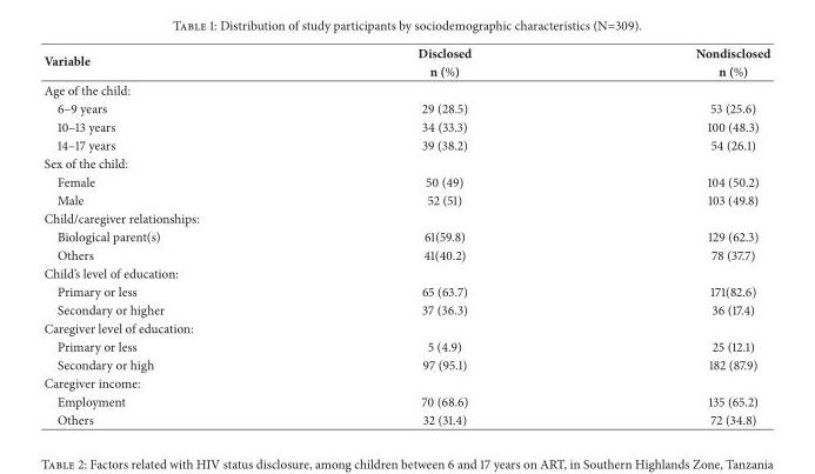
<table><thead><tr><td rowspan="2">Variable</td><td rowspan="2">Disclosed n (%)</td><td rowspan="2">Nondisclosed n (%)</td></tr><tr></tr></thead><tbody><tr><td colspan="3">Age of the child:</td></tr><tr><td>6–9 years</td><td>29 (28.5)</td><td>53 (25.6)</td></tr><tr><td>10–13 years</td><td>34 (33.3)</td><td>100 (48.3)</td></tr><tr><td>14–17 years</td><td>39 (38.2)</td><td>54 (26.1)</td></tr><tr><td colspan="3">Sex of the child:</td></tr><tr><td>Female</td><td>50 (49)</td><td>104 (50.2)</td></tr><tr><td>Male</td><td>52 (51)</td><td>103 (49.8)</td></tr><tr><td colspan="3">Child/caregiver relationships:</td></tr><tr><td>Biological parent(s)</td><td>61(59.8)</td><td>129 (62.3)</td></tr><tr><td>Others</td><td>41(40.2)</td><td>78 (37.7)</td></tr><tr><td colspan="3">Child’s level of education:</td></tr><tr><td>Primary or less</td><td>65 (63.7)</td><td>171(82.6)</td></tr><tr><td>Secondary or higher</td><td>37 (36.3)</td><td>36 (17.4)</td></tr><tr><td colspan="3">Caregiver level of education:</td></tr><tr><td>Primary or less</td><td>5 (4.9)</td><td>25 (12.1)</td></tr><tr><td>Secondary or high</td><td>97 (95.1)</td><td>182 (87.9)</td></tr><tr><td colspan="3">Caregiver income:</td></tr><tr><td>Employment</td><td>70 (68.6)</td><td>135 (65.2)</td></tr><tr><td>Others</td><td>32 (31.4)</td><td>72 (34.8)</td></tr></tbody></table>